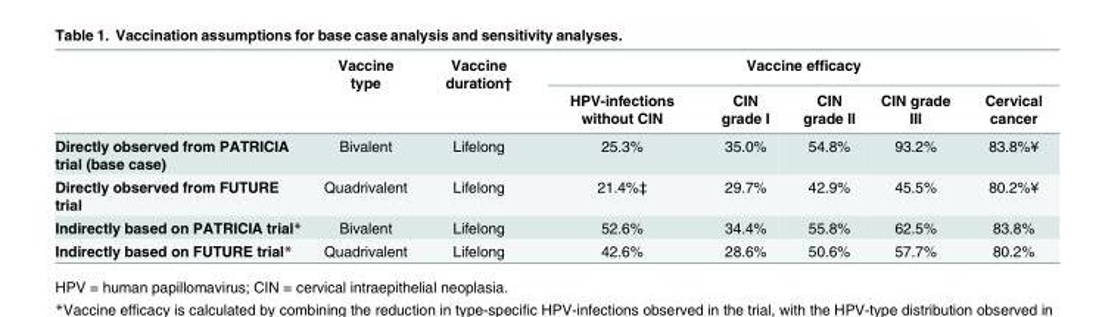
<table><thead><tr><td rowspan="2"></td><td rowspan="2">Vaccine type</td><td rowspan="2">Vaccine duration†</td><td colspan="5">Vaccine efficacy</td></tr><tr><td>HPV-infections without CIN</td><td>CIN grade I</td><td>CIN grade II</td><td>CIN grade III</td><td>Cervical cancer</td></tr></thead><tbody><tr><td>Directly observed from PATRICIA trial (base case)</td><td>Bivalent</td><td>Lifelong</td><td>25.3%</td><td>35.0%</td><td>54.8%</td><td>93.2%</td><td>83.8%¥</td></tr><tr><td>Directly observed from FUTURE trial</td><td>Quadrivalent</td><td>Lifelong</td><td>21.4%‡</td><td>29.7%</td><td>42.9%</td><td>45.5%</td><td>80.2%¥</td></tr><tr><td>Indirectly based on PATRICIA trial*</td><td>Bivalent</td><td>Lifelong</td><td>52.6%</td><td>34.4%</td><td>55.8%</td><td>62.5%</td><td>83.8%</td></tr><tr><td>Indirectly based on FUTURE trial*</td><td>Quadrivalent</td><td>Lifelong</td><td>42.6%</td><td>28.6%</td><td>50.6%</td><td>57.7%</td><td>80.2%</td></tr></tbody></table>